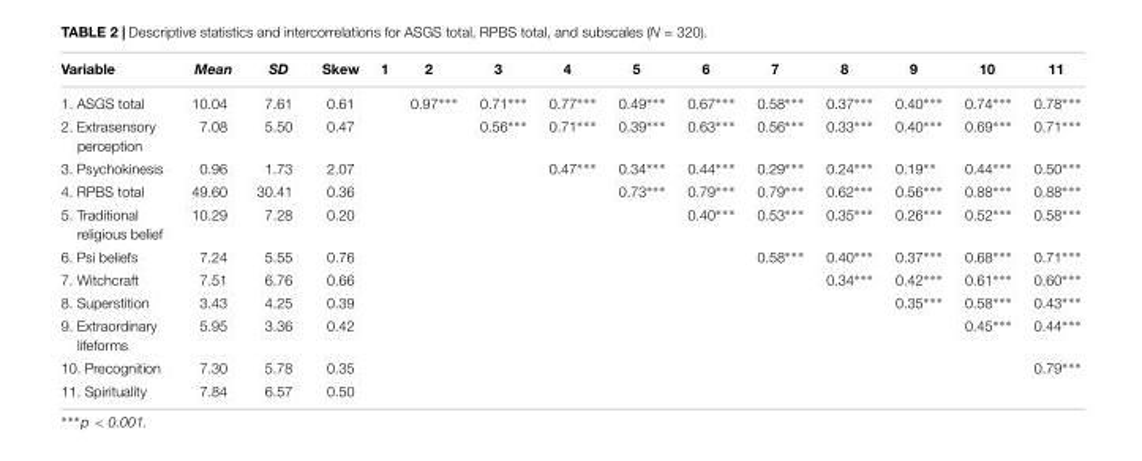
<table><thead><tr><td>Variable</td><td>Mean</td><td>SD</td><td>Skew</td><td>1</td><td>2</td><td>3</td><td>4</td><td>5</td><td>6</td><td>7</td><td>8</td><td>9</td><td>10</td><td>11</td></tr></thead><tbody><tr><td>1. ASGS total</td><td>10.04</td><td>7.61</td><td>0.61</td><td></td><td>0.97∗∗∗</td><td>0.71∗∗∗</td><td>0.77∗∗∗</td><td>0.49∗∗∗</td><td>0.67∗∗∗</td><td>0.58∗∗∗</td><td>0.37∗∗∗</td><td>0.40∗∗∗</td><td>0.74∗∗∗</td><td>0.78∗∗∗</td></tr><tr><td>2. Extrasensory perception</td><td>7.08</td><td>5.50</td><td>0.47</td><td></td><td></td><td>0.56∗∗∗</td><td>0.71∗∗∗</td><td>0.39∗∗∗</td><td>0.63∗∗∗</td><td>0.56∗∗∗</td><td>0.33∗∗∗</td><td>0.40∗∗∗</td><td>0.69∗∗∗</td><td>0.71∗∗∗</td></tr><tr><td>3. Psychokinesis</td><td>0.96</td><td>1.73</td><td>2.07</td><td></td><td></td><td></td><td>0.47∗∗∗</td><td>0.34∗∗∗</td><td>0.44∗∗∗</td><td>0.29∗∗∗</td><td>0.24∗∗∗</td><td>0.19∗∗</td><td>0.44∗∗∗</td><td>0.50∗∗∗</td></tr><tr><td>4. RPBS total</td><td>49.60</td><td>30.41</td><td>0.36</td><td></td><td></td><td></td><td></td><td>0.73∗∗∗</td><td>0.79∗∗∗</td><td>0.79∗∗∗</td><td>0.62∗∗∗</td><td>0.56∗∗∗</td><td>0.88∗∗∗</td><td>0.88∗∗∗</td></tr><tr><td>5. Traditional religious belief</td><td>10.29</td><td>7.28</td><td>0.20</td><td></td><td></td><td></td><td></td><td></td><td>0.40∗∗∗</td><td>0.53∗∗∗</td><td>0.35∗∗∗</td><td>0.26∗∗∗</td><td>0.52∗∗∗</td><td>0.58∗∗∗</td></tr><tr><td>6. Psi beliefs</td><td>7.24</td><td>5.55</td><td>0.76</td><td></td><td></td><td></td><td></td><td></td><td></td><td>0.58∗∗∗</td><td>0.40∗∗∗</td><td>0.37∗∗∗</td><td>0.68∗∗∗</td><td>0.71∗∗∗</td></tr><tr><td>7. Witchcraft</td><td>7.51</td><td>6.76</td><td>0.66</td><td></td><td></td><td></td><td></td><td></td><td></td><td></td><td>0.34∗∗∗</td><td>0.42∗∗∗</td><td>0.61∗∗∗</td><td>0.60∗∗∗</td></tr><tr><td>8. Superstition</td><td>3.43</td><td>4.25</td><td>0.39</td><td></td><td></td><td></td><td></td><td></td><td></td><td></td><td></td><td>0.35∗∗∗</td><td>0.58∗∗∗</td><td>0.43∗∗∗</td></tr><tr><td>9. Extraordinary lifeforms</td><td>5.95</td><td>3.36</td><td>0.42</td><td></td><td></td><td></td><td></td><td></td><td></td><td></td><td></td><td></td><td>0.45∗∗∗</td><td>0.44∗∗∗</td></tr><tr><td>10. Precognition</td><td>7.30</td><td>5.78</td><td>0.35</td><td></td><td></td><td></td><td></td><td></td><td></td><td></td><td></td><td></td><td></td><td>0.79∗∗∗</td></tr><tr><td>11. Spirituality</td><td>7.84</td><td>6.57</td><td>0.50</td><td></td><td></td><td></td><td></td><td></td><td></td><td></td><td></td><td></td><td></td><td></td></tr></tbody></table>